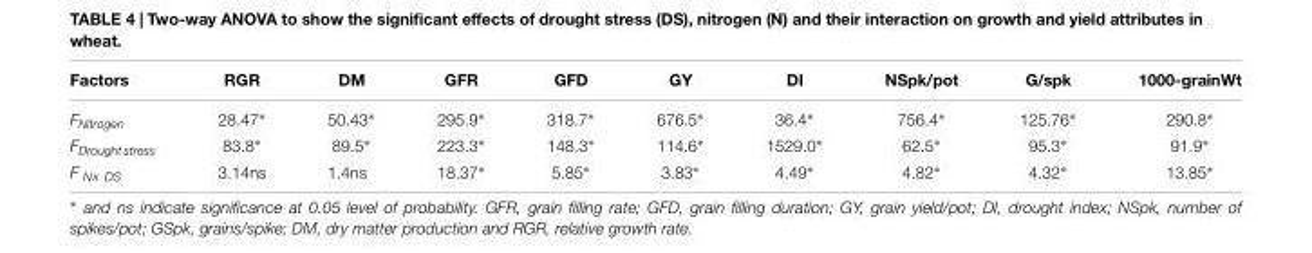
<table><thead><tr><td>Factors</td><td>RGR</td><td>DM</td><td>GFR</td><td>GFD</td><td>GY</td><td>DI</td><td>NSpk/pot</td><td>G/spk</td><td>1000-grainWt</td></tr></thead><tbody><tr><td>F<sub>Nitrogen</sub></td><td>28.47∗</td><td>50.43∗</td><td>295.9∗</td><td>318.7∗</td><td>676.5∗</td><td>36.4∗</td><td>756.4∗</td><td>125.76∗</td><td>290.8∗</td></tr><tr><td>F<sub>Drought stress</sub></td><td>83.8∗</td><td>89.5∗</td><td>223.3∗</td><td>148.3∗</td><td>114.6∗</td><td>1529.0∗</td><td>62.5∗</td><td>95.3∗</td><td>91.9∗</td></tr><tr><td>F <sub>Nx DS</sub></td><td>3.14ns</td><td>1.4ns</td><td>18.37∗</td><td>5.85∗</td><td>3.83∗</td><td>4.49∗</td><td>4.82∗</td><td>4.32∗</td><td>13.85∗</td></tr></tbody></table>